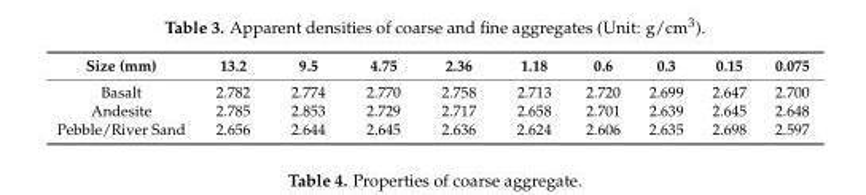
<table><thead><tr><td>Size (mm)</td><td>13.2</td><td>9.5</td><td>4.75</td><td>2.36</td><td>1.18</td><td>0.6</td><td>0.3</td><td>0.15</td><td>0.075</td></tr></thead><tbody><tr><td>Basalt</td><td>2.782</td><td>2.774</td><td>2.770</td><td>2.758</td><td>2.713</td><td>2.720</td><td>2.699</td><td>2.647</td><td>2.700</td></tr><tr><td>Andesite</td><td>2.785</td><td>2.853</td><td>2.729</td><td>2.717</td><td>2.658</td><td>2.701</td><td>2.639</td><td>2.645</td><td>2.648</td></tr><tr><td>Pebble/River Sand</td><td>2.656</td><td>2.644</td><td>2.645</td><td>2.636</td><td>2.624</td><td>2.606</td><td>2.635</td><td>2.698</td><td>2.597</td></tr></tbody></table>